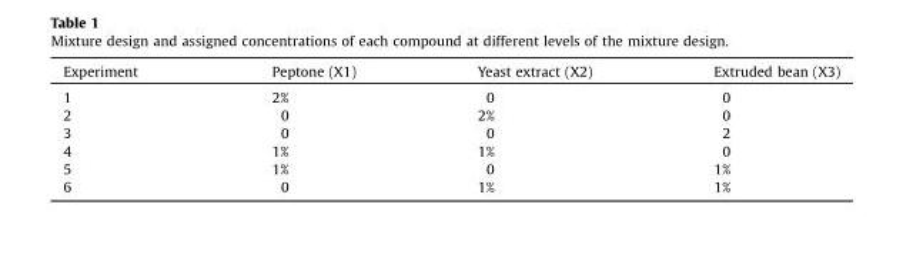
<table><thead><tr><td>Experiment</td><td>Peptone (X1)</td><td>Yeast extract (X2)</td><td>Extruded bean (X3)</td></tr></thead><tbody><tr><td>1</td><td>2%</td><td>0</td><td>0</td></tr><tr><td>2</td><td>0</td><td>2%</td><td>0</td></tr><tr><td>3</td><td>0</td><td>0</td><td>2</td></tr><tr><td>4</td><td>1%</td><td>1%</td><td>0</td></tr><tr><td>5</td><td>1%</td><td>0</td><td>1%</td></tr><tr><td>6</td><td>0</td><td>1%</td><td>1%</td></tr></tbody></table>